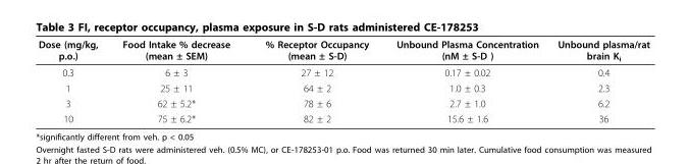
<table><thead><tr><td>Dose (mg/kg, p.o.)</td><td>Food Intake % decrease (mean ± SEM)</td><td>% Receptor Occupancy (mean ± S-D)</td><td>Unbound Plasma Concentration (nM ± S-D )</td><td>Unbound plasma/rat brain K<sub>i</sub></td></tr></thead><tbody><tr><td>0.3</td><td>6 ± 3</td><td>27 ± 12</td><td>0.17 ± 0.02</td><td>0.4</td></tr><tr><td>1</td><td>25 ± 11</td><td>64 ± 2</td><td>1.0 ± 0.3</td><td>2.3</td></tr><tr><td>3</td><td>62 ± 5.2*</td><td>78 ± 6</td><td>2.7 ± 1.0</td><td>6.2</td></tr><tr><td>10</td><td>75 ± 6.2*</td><td>82 ± 2</td><td>15.6 ± 1.6</td><td>36</td></tr></tbody></table>